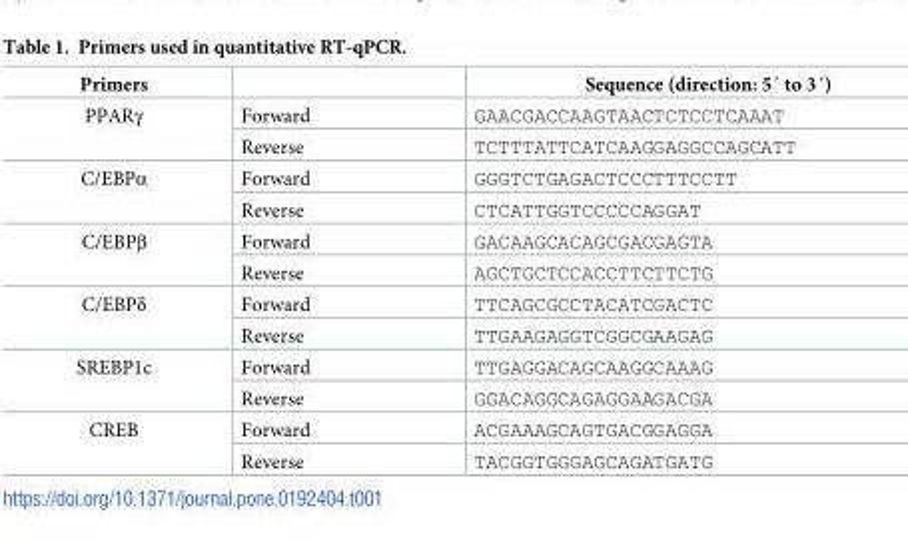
<table><thead><tr><td>Primers</td><td></td><td>Sequence (direction: 5´ to 3´)</td></tr></thead><tbody><tr><td rowspan="2">PPARγ</td><td>Forward</td><td>GAACGACCAAGTAACTCTCCTCAAAT</td></tr><tr><td>Reverse</td><td>TCTTTATTCATCAAGGAGGCCAGCATT</td></tr><tr><td rowspan="2">C/EBPα</td><td>Forward</td><td>GGGTCTGAGACTCCCTTTCCTT</td></tr><tr><td>Reverse</td><td>CTCATTGGTCCCCCAGGAT</td></tr><tr><td rowspan="2">C/EBPβ</td><td>Forward</td><td>GACAAGCACAGCGACGAGTA</td></tr><tr><td>Reverse</td><td>AGCTGCTCCACCTTCTTCTG</td></tr><tr><td rowspan="2">C/EBPδ</td><td>Forward</td><td>TTCAGCGCCTACATCGACTC</td></tr><tr><td>Reverse</td><td>TTGAAGAGGTCGGCGAAGAG</td></tr><tr><td rowspan="2">SREBP1c</td><td>Forward</td><td>TTGAGGACAGCAAGGCAAAG</td></tr><tr><td>Reverse</td><td>GGACAGGCAGAGGAAGACGA</td></tr><tr><td rowspan="2">CREB</td><td>Forward</td><td>ACGAAAGCAGTGACGGAGGA</td></tr><tr><td>Reverse</td><td>TACGGTGGGAGCAGATGATG</td></tr></tbody></table>